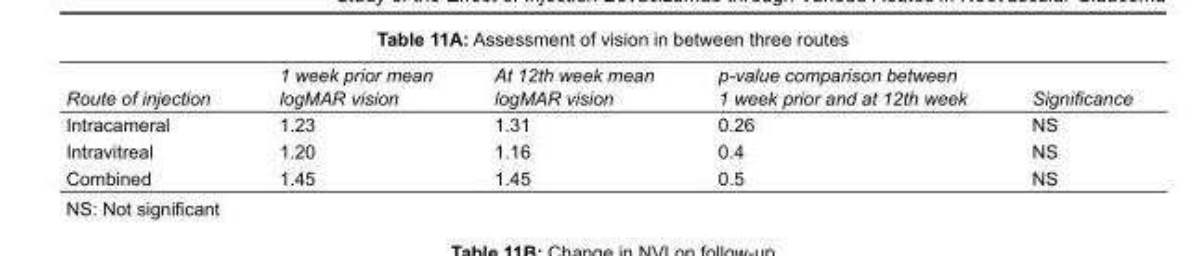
<table><tbody><tr><td>Route of injection</td><td>1 week prior mean logMAR vision</td><td>At 12th week mean logMAR vision</td><td>p-value comparison between 1 week prior and at 12th week</td><td>Significance</td></tr><tr><td>Intracameral</td><td>1.23</td><td>1.31</td><td>0.26</td><td>NS</td></tr><tr><td>Intravitreal</td><td>1.20</td><td>1.16</td><td>0.4</td><td>NS</td></tr><tr><td>Combined</td><td>1.45</td><td>1.45</td><td>0.5</td><td>NS</td></tr></tbody></table>